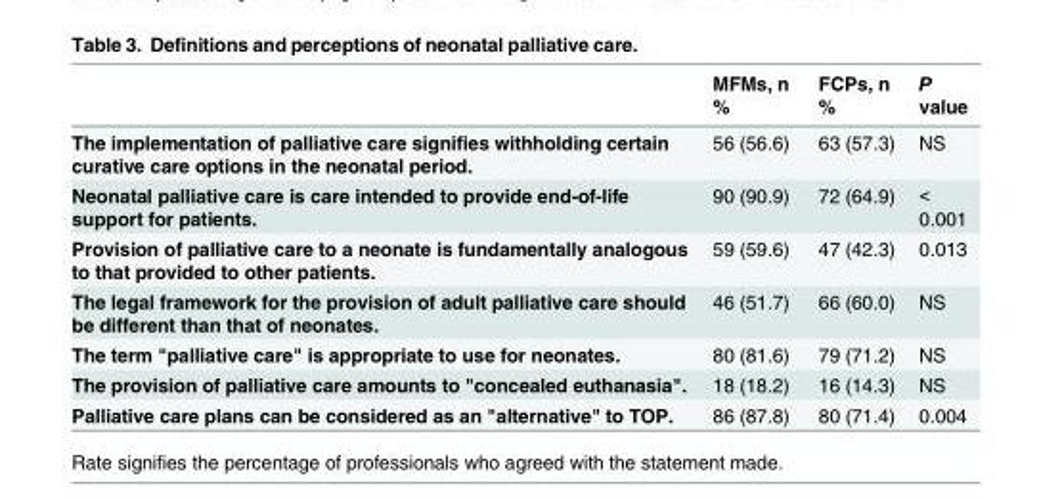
<table><thead><tr><td></td><td>MFMs, n %</td><td>FCPs, n %</td><td>P value</td></tr></thead><tbody><tr><td>The implementation of palliative care signifies withholding certain curative care options in the neonatal period.</td><td>56 (56.6)</td><td>63 (57.3)</td><td>NS</td></tr><tr><td>Neonatal palliative care is care intended to provide end-of-life support for patients.</td><td>90 (90.9)</td><td>72 (64.9)</td><td>&lt; 0.001</td></tr><tr><td>Provision of palliative care to a neonate is fundamentally analogous to that provided to other patients.</td><td>59 (59.6)</td><td>47 (42.3)</td><td>0.013</td></tr><tr><td>The legal framework for the provision of adult palliative care should be different than that of neonates.</td><td>46 (51.7)</td><td>66 (60.0)</td><td>NS</td></tr><tr><td>The term &quot;palliative care&quot; is appropriate to use for neonates.</td><td>80 (81.6)</td><td>79 (71.2)</td><td>NS</td></tr><tr><td>The provision of palliative care amounts to &quot;concealed euthanasia&quot;.</td><td>18 (18.2)</td><td>16 (14.3)</td><td>NS</td></tr><tr><td>Palliative care plans can be considered as an &quot;alternative&quot; to TOP.</td><td>86 (87.8)</td><td>80 (71.4)</td><td>0.004</td></tr></tbody></table>